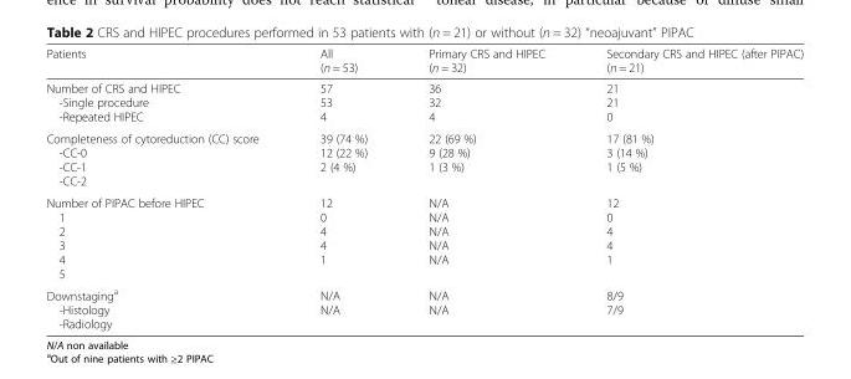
<table><thead><tr><td>Patients</td><td>All (n = 53)</td><td>Primary CRS and HIPEC (n = 32)</td><td>Secondary CRS and HIPEC (after PIPAC) (n = 21)</td></tr></thead><tbody><tr><td>Number of CRS and HIPEC -Single procedure -Repeated HIPEC</td><td>57 53 4</td><td>36 32 4</td><td>21 21 0</td></tr><tr><td>Completeness of cytoreduction (CC) score -CC-0 -CC-1 -CC-2</td><td>39 (74 %) 12 (22 %) 2 (4 %)</td><td>22 (69 %) 9 (28 %) 1 (3 %)</td><td>17 (81 %) 3 (14 %) 1 (5 %)</td></tr><tr><td>Number of PIPAC before HIPEC 1 2 3 4 5</td><td>12 0 4 4 1</td><td>N/A N/A N/A N/A N/A</td><td>12 0 4 4 1</td></tr><tr><td>Downstaging<sup>a</sup> -Histology -Radiology</td><td>N/A N/A</td><td>N/A N/A</td><td>8/9 7/9</td></tr></tbody></table>